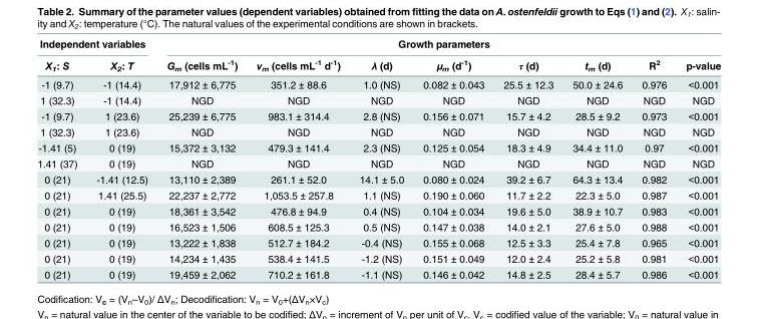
<table><thead><tr><td colspan="2">Independent variables</td><td colspan="8">Growth parameters</td></tr><tr><td>X<sub>1</sub>: S</td><td>X<sub>2</sub>: T</td><td>G<sub>m</sub> (cells mL<sup>-1</sup>)</td><td>v<sub>m</sub> (cells mL<sup>-1</sup> d<sup>-1</sup>)</td><td>λ (d)</td><td>μ<sub>m</sub> (d<sup>-1</sup>)</td><td>τ (d)</td><td>t<sub>m</sub> (d)</td><td>R<sup>2</sup></td><td>p-value</td></tr></thead><tbody><tr><td>-1 (9.7)</td><td>-1 (14.4)</td><td>17,912 ± 6,775</td><td>351.2 ± 88.6</td><td>1.0 (NS)</td><td>0.082 ± 0.043</td><td>25.5 ± 12.3</td><td>50.0 ± 24.6</td><td>0.976</td><td>&lt;0.001</td></tr><tr><td>1 (32.3)</td><td>-1 (14.4)</td><td>NGD</td><td>NGD</td><td>NGD</td><td>NGD</td><td>NGD</td><td>NGD</td><td>NGD</td><td>NGD</td></tr><tr><td>-1 (9.7)</td><td>1 (23.6)</td><td>25,239 ± 6,775</td><td>983.1 ± 314.4</td><td>2.8 (NS)</td><td>0.156 ± 0.071</td><td>15.7 ± 4.2</td><td>28.5 ± 9.2</td><td>0.973</td><td>&lt;0.001</td></tr><tr><td>1 (32.3)</td><td>1 (23.6)</td><td>NGD</td><td>NGD</td><td>NGD</td><td>NGD</td><td>NGD</td><td>NGD</td><td>NGD</td><td>NGD</td></tr><tr><td>-1.41 (5)</td><td>0 (19)</td><td>15,372 ± 3,132</td><td>479.3 ± 141.4</td><td>2.3 (NS)</td><td>0.125 ± 0.054</td><td>18.3 ± 4.9</td><td>34.4 ± 11.0</td><td>0.97</td><td>&lt;0.001</td></tr><tr><td>1.41 (37)</td><td>0 (19)</td><td>NGD</td><td>NGD</td><td>NGD</td><td>NGD</td><td>NGD</td><td>NGD</td><td>NGD</td><td>NGD</td></tr><tr><td>0 (21)</td><td>-1.41 (12.5)</td><td>13,110 ± 2,389</td><td>261.1 ± 52.0</td><td>14.1 ± 5.0</td><td>0.080 ± 0.024</td><td>39.2 ± 6.7</td><td>64.3 ± 13.4</td><td>0.982</td><td>&lt;0.001</td></tr><tr><td>0 (21)</td><td>1.41 (25.5)</td><td>22,237 ± 2,772</td><td>1,053.5 ± 257.8</td><td>1.1 (NS)</td><td>0.190 ± 0.060</td><td>11.7 ± 2.2</td><td>22.3 ± 5.0</td><td>0.987</td><td>&lt;0.001</td></tr><tr><td>0 (21)</td><td>0 (19)</td><td>18,361 ± 3,542</td><td>476.8 ± 94.9</td><td>0.4 (NS)</td><td>0.104 ± 0.034</td><td>19.6 ± 5.0</td><td>38.9 ± 10.7</td><td>0.983</td><td>&lt;0.001</td></tr><tr><td>0 (21)</td><td>0 (19)</td><td>16,523 ± 1,506</td><td>608.5 ± 125.3</td><td>0.5 (NS)</td><td>0.147 ± 0.038</td><td>14.0 ± 2.1</td><td>27.6 ± 5.0</td><td>0.988</td><td>&lt;0.001</td></tr><tr><td>0 (21)</td><td>0 (19)</td><td>13,222 ± 1,838</td><td>512.7 ± 184.2</td><td>-0.4 (NS)</td><td>0.155 ± 0.068</td><td>12.5 ± 3.3</td><td>25.4 ± 7.8</td><td>0.965</td><td>&lt;0.001</td></tr><tr><td>0 (21)</td><td>0 (19)</td><td>14,234 ± 1,435</td><td>538.4 ± 141.5</td><td>-1.2 (NS)</td><td>0.151 ± 0.049</td><td>12.0 ± 2.4</td><td>25.2 ± 5.8</td><td>0.981</td><td>&lt;0.001</td></tr><tr><td>0 (21)</td><td>0 (19)</td><td>19,459 ± 2,062</td><td>710.2 ± 161.8</td><td>-1.1 (NS)</td><td>0.146 ± 0.042</td><td>14.8 ± 2.5</td><td>28.4 ± 5.7</td><td>0.986</td><td>&lt;0.001</td></tr></tbody></table>